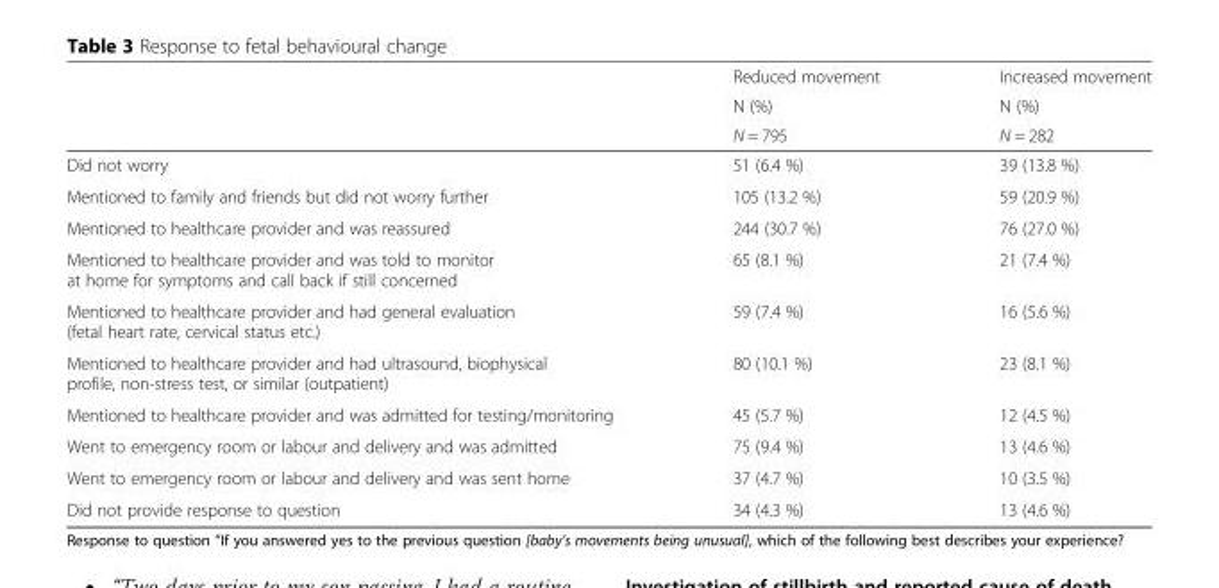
<table><thead><tr><td rowspan="3"></td><td rowspan="3">Reduced movement N (%) N = 795</td><td rowspan="3">Increased movement N (%) N = 282</td></tr><tr></tr><tr></tr></thead><tbody><tr><td>Did not worry</td><td>51 (6.4 %)</td><td>39 (13.8 %)</td></tr><tr><td>Mentioned to family and friends but did not worry further</td><td>105 (13.2 %)</td><td>59 (20.9 %)</td></tr><tr><td>Mentioned to healthcare provider and was reassured</td><td>244 (30.7 %)</td><td>76 (27.0 %)</td></tr><tr><td>Mentioned to healthcare provider and was told to monitor at home for symptoms and call back if still concerned</td><td>65 (8.1 %)</td><td>21 (7.4 %)</td></tr><tr><td>Mentioned to healthcare provider and had general evaluation (fetal heart rate, cervical status etc.)</td><td>59 (7.4 %)</td><td>16 (5.6 %)</td></tr><tr><td>Mentioned to healthcare provider and had ultrasound, biophysical profile, non-stress test, or similar (outpatient)</td><td>80 (10.1 %)</td><td>23 (8.1 %)</td></tr><tr><td>Mentioned to healthcare provider and was admitted for testing/monitoring</td><td>45 (5.7 %)</td><td>12 (4.5 %)</td></tr><tr><td>Went to emergency room or labour and delivery and was admitted</td><td>75 (9.4 %)</td><td>13 (4.6 %)</td></tr><tr><td>Went to emergency room or labour and delivery and was sent home</td><td>37 (4.7 %)</td><td>10 (3.5 %)</td></tr><tr><td>Did not provide response to question</td><td>34 (4.3 %)</td><td>13 (4.6 %)</td></tr></tbody></table>